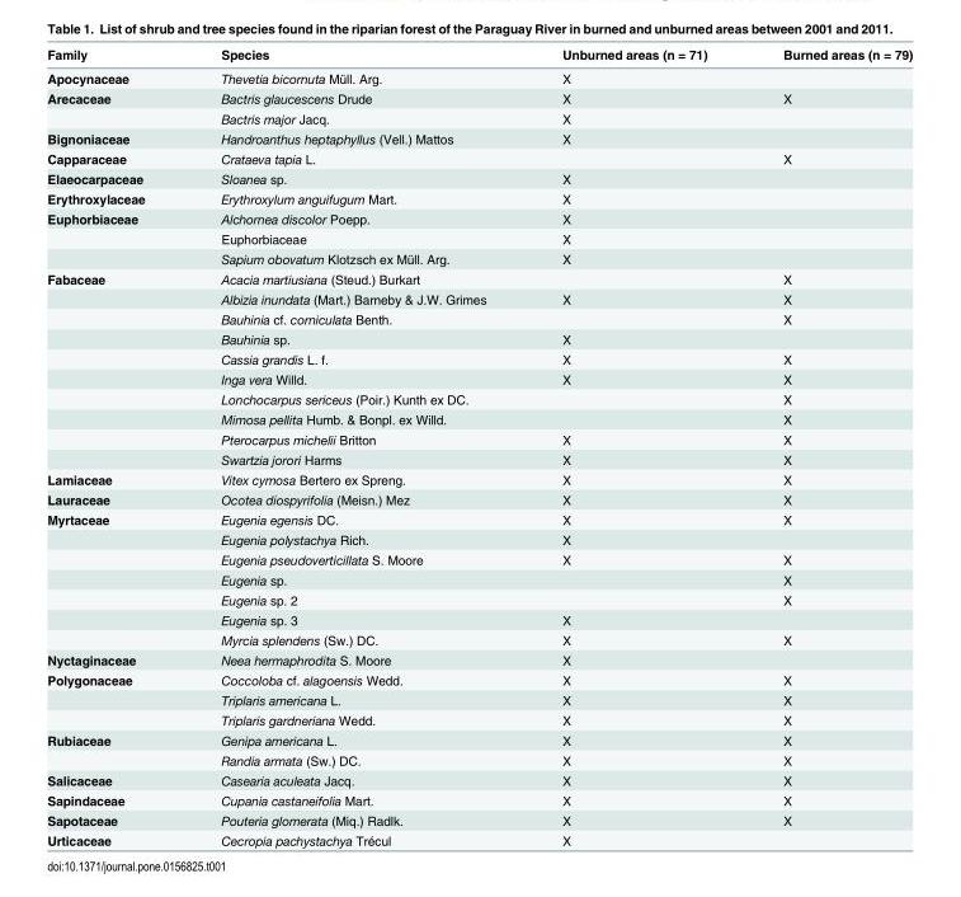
<table><thead><tr><td>Family</td><td>Species</td><td>Unburned areas (n = 71)</td><td>Burned areas (n = 79)</td></tr></thead><tbody><tr><td>Apocynaceae</td><td>Thevetia bicornuta Müll. Arg.</td><td>X</td><td></td></tr><tr><td rowspan="2">Arecaceae</td><td>Bactris glaucescens Drude</td><td>X</td><td>X</td></tr><tr><td>Bactris major Jacq.</td><td>X</td><td></td></tr><tr><td>Bignoniaceae</td><td>Handroanthus heptaphyllus (Vell.) Mattos</td><td>X</td><td></td></tr><tr><td>Capparaceae</td><td>Crataeva tapia L.</td><td></td><td>X</td></tr><tr><td>Elaeocarpaceae</td><td>Sloanea sp.</td><td>X</td><td></td></tr><tr><td>Erythroxylaceae</td><td>Erythroxylum anguifugum Mart.</td><td>X</td><td></td></tr><tr><td rowspan="3">Euphorbiaceae</td><td>Alchornea discolor Poepp.</td><td>X</td><td></td></tr><tr><td>Euphorbiaceae</td><td>X</td><td></td></tr><tr><td>Sapium obovatum Klotzsch ex Müll. Arg.</td><td>X</td><td></td></tr><tr><td rowspan="10">Fabaceae</td><td>Acacia martiusiana (Steud.) Burkart</td><td></td><td>X</td></tr><tr><td>Albizia inundata (Mart.) Barneby &amp; J.W. Grimes</td><td>X</td><td>X</td></tr><tr><td>Bauhinia cf. corniculata Benth.</td><td></td><td>X</td></tr><tr><td>Bauhinia sp.</td><td>X</td><td></td></tr><tr><td>Cassia grandis L. f.</td><td>X</td><td>X</td></tr><tr><td>Inga vera Willd.</td><td>X</td><td>X</td></tr><tr><td>Lonchocarpus sericeus (Poir.) Kunth ex DC.</td><td></td><td>X</td></tr><tr><td>Mimosa pellita Humb. &amp; Bonpl. ex Willd.</td><td></td><td>X</td></tr><tr><td>Pterocarpus michelii Britton</td><td>X</td><td>X</td></tr><tr><td>Swartzia jorori Harms</td><td>X</td><td>X</td></tr><tr><td>Lamiaceae</td><td>Vitex cymosa Bertero ex Spreng.</td><td>X</td><td>X</td></tr><tr><td>Lauraceae</td><td>Ocotea diospyrifolia (Meisn.) Mez</td><td>X</td><td>X</td></tr><tr><td rowspan="7">Myrtaceae</td><td>Eugenia egensis DC.</td><td>X</td><td>X</td></tr><tr><td>Eugenia polystachya Rich.</td><td>X</td><td></td></tr><tr><td>Eugenia pseudoverticillata S. Moore</td><td>X</td><td>X</td></tr><tr><td>Eugenia sp.</td><td></td><td>X</td></tr><tr><td>Eugenia sp. 2</td><td></td><td>X</td></tr><tr><td>Eugenia sp. 3</td><td>X</td><td></td></tr><tr><td>Myrcia splendens (Sw.) DC.</td><td>X</td><td>X</td></tr><tr><td>Nyctaginaceae</td><td>Neea hermaphrodita S. Moore</td><td>X</td><td></td></tr><tr><td rowspan="3">Polygonaceae</td><td>Coccoloba cf. alagoensis Wedd.</td><td>X</td><td>X</td></tr><tr><td>Triplaris americana L.</td><td>X</td><td>X</td></tr><tr><td>Triplaris gardneriana Wedd.</td><td>X</td><td>X</td></tr><tr><td rowspan="2">Rubiaceae</td><td>Genipa americana L.</td><td>X</td><td>X</td></tr><tr><td>Randia armata (Sw.) DC.</td><td>X</td><td>X</td></tr><tr><td>Salicaceae</td><td>Casearia aculeata Jacq.</td><td>X</td><td>X</td></tr><tr><td>Sapindaceae</td><td>Cupania castaneifolia Mart.</td><td>X</td><td>X</td></tr><tr><td>Sapotaceae</td><td>Pouteria glomerata (Miq.) Radlk.</td><td>X</td><td>X</td></tr><tr><td>Urticaceae</td><td>Cecropia pachystachya Trécul</td><td>X</td><td></td></tr></tbody></table>